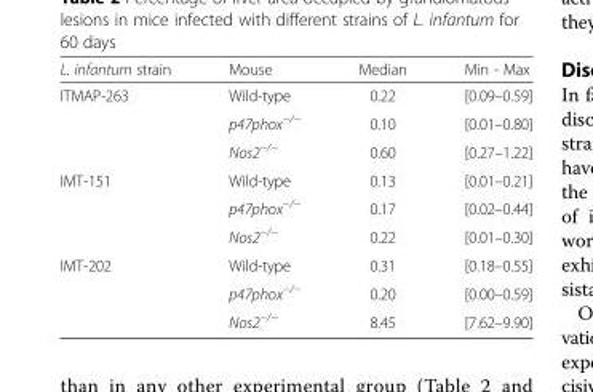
<table><thead><tr><td>L. infantum strain</td><td>Mouse</td><td>Median</td><td>Min - Max</td></tr></thead><tbody><tr><td rowspan="3">ITMAP-263</td><td>Wild-type</td><td>0.22</td><td>[0.09–0.59]</td></tr><tr><td>p47phox<sup>−/−</sup></td><td>0.10</td><td>[0.01–0.80]</td></tr><tr><td>Nos2<sup>−/−</sup></td><td>0.60</td><td>[0.27–1.22]</td></tr><tr><td rowspan="3">IMT-151</td><td>Wild-type</td><td>0.13</td><td>[0.01–0.21]</td></tr><tr><td>p47phox<sup>−/−</sup></td><td>0.17</td><td>[0.02–0.44]</td></tr><tr><td>Nos2<sup>−/−</sup></td><td>0.22</td><td>[0.01–0.30]</td></tr><tr><td rowspan="3">IMT-202</td><td>Wild-type</td><td>0.31</td><td>[0.18–0.55]</td></tr><tr><td>p47phox<sup>−/−</sup></td><td>0.20</td><td>[0.00–0.59]</td></tr><tr><td>Nos2<sup>−/−</sup></td><td>8.45</td><td>[7.62–9.90]</td></tr></tbody></table>